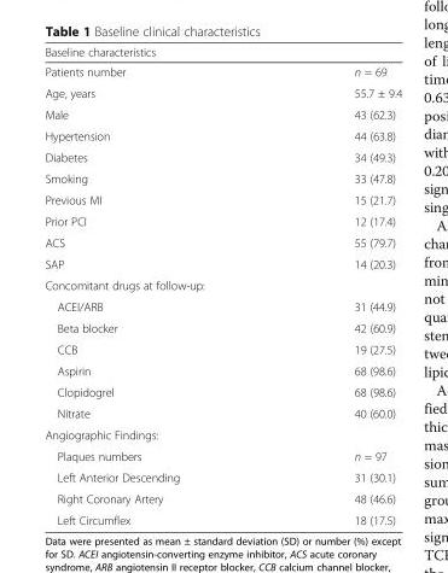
<table><thead><tr><td colspan="2">Baseline characteristics</td></tr><tr><td>Patients number</td><td>n = 69</td></tr></thead><tbody><tr><td>Age, years</td><td>55.7 ± 9.4</td></tr><tr><td>Male</td><td>43 (62.3)</td></tr><tr><td>Hypertension</td><td>44 (63.8)</td></tr><tr><td>Diabetes</td><td>34 (49.3)</td></tr><tr><td>Smoking</td><td>33 (47.8)</td></tr><tr><td>Previous MI</td><td>15 (21.7)</td></tr><tr><td>Prior PCI</td><td>12 (17.4)</td></tr><tr><td>ACS</td><td>55 (79.7)</td></tr><tr><td>SAP</td><td>14 (20.3)</td></tr><tr><td colspan="2">Concomitant drugs at follow-up:</td></tr><tr><td>ACEI/ARB</td><td>31 (44.9)</td></tr><tr><td>Beta blocker</td><td>42 (60.9)</td></tr><tr><td>CCB</td><td>19 (27.5)</td></tr><tr><td>Aspirin</td><td>68 (98.6)</td></tr><tr><td>Clopidogrel</td><td>68 (98.6)</td></tr><tr><td>Nitrate</td><td>40 (60.0)</td></tr><tr><td colspan="2">Angiographic Findings:</td></tr><tr><td>Plaques numbers</td><td>n = 97</td></tr><tr><td>Left Anterior Descending</td><td>31 (30.1)</td></tr><tr><td>Right Coronary Artery</td><td>48 (46.6)</td></tr><tr><td>Left Circumflex</td><td>18 (17.5)</td></tr></tbody></table>